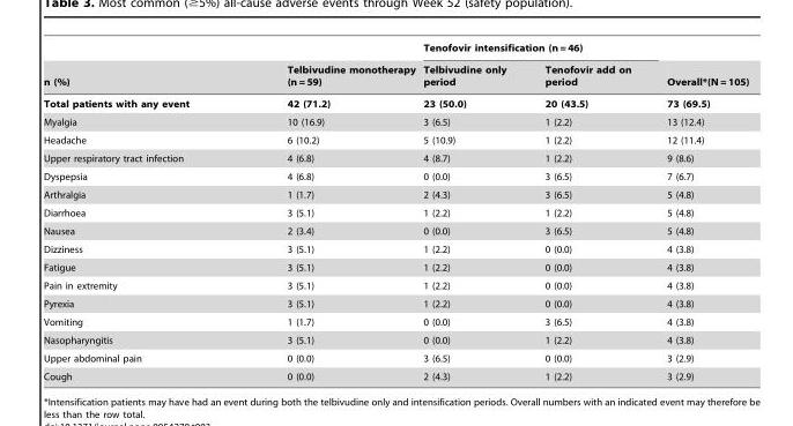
<table><thead><tr><td rowspan="2">n (%)</td><td rowspan="2">Telbivudine monotherapy (n = 59)</td><td colspan="2">Tenofovir intensification (n = 46)</td><td rowspan="2">Overall*(N = 105)</td></tr><tr><td>Telbivudine only period</td><td>Tenofovir add on period</td></tr></thead><tbody><tr><td>Total patients with any event</td><td>42 (71.2)</td><td>23 (50.0)</td><td>20 (43.5)</td><td>73 (69.5)</td></tr><tr><td>Myalgia</td><td>10 (16.9)</td><td>3 (6.5)</td><td>1 (2.2)</td><td>13 (12.4)</td></tr><tr><td>Headache</td><td>6 (10.2)</td><td>5 (10.9)</td><td>1 (2.2)</td><td>12 (11.4)</td></tr><tr><td>Upper respiratory tract infection</td><td>4 (6.8)</td><td>4 (8.7)</td><td>1 (2.2)</td><td>9 (8.6)</td></tr><tr><td>Dyspepsia</td><td>4 (6.8)</td><td>0 (0.0)</td><td>3 (6.5)</td><td>7 (6.7)</td></tr><tr><td>Arthralgia</td><td>1 (1.7)</td><td>2 (4.3)</td><td>3 (6.5)</td><td>5 (4.8)</td></tr><tr><td>Diarrhoea</td><td>3 (5.1)</td><td>1 (2.2)</td><td>1 (2.2)</td><td>5 (4.8)</td></tr><tr><td>Nausea</td><td>2 (3.4)</td><td>0 (0.0)</td><td>3 (6.5)</td><td>5 (4.8)</td></tr><tr><td>Dizziness</td><td>3 (5.1)</td><td>1 (2.2)</td><td>0 (0.0)</td><td>4 (3.8)</td></tr><tr><td>Fatigue</td><td>3 (5.1)</td><td>1 (2.2)</td><td>0 (0.0)</td><td>4 (3.8)</td></tr><tr><td>Pain in extremity</td><td>3 (5.1)</td><td>1 (2.2)</td><td>0 (0.0)</td><td>4 (3.8)</td></tr><tr><td>Pyrexia</td><td>3 (5.1)</td><td>1 (2.2)</td><td>0 (0.0)</td><td>4 (3.8)</td></tr><tr><td>Vomiting</td><td>1 (1.7)</td><td>0 (0.0)</td><td>3 (6.5)</td><td>4 (3.8)</td></tr><tr><td>Nasopharyngitis</td><td>3 (5.1)</td><td>0 (0.0)</td><td>1 (2.2)</td><td>4 (3.8)</td></tr><tr><td>Upper abdominal pain</td><td>0 (0.0)</td><td>3 (6.5)</td><td>0 (0.0)</td><td>3 (2.9)</td></tr><tr><td>Cough</td><td>0 (0.0)</td><td>2 (4.3)</td><td>1 (2.2)</td><td>3 (2.9)</td></tr></tbody></table>